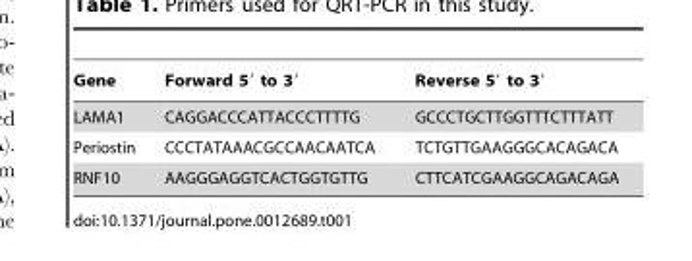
<table><thead><tr><td>Gene</td><td>Forward 5′ to 3′</td><td>Reverse 5′ to 3′</td></tr></thead><tbody><tr><td>LAMA1</td><td>CAGGACCCATTACCCTTTTG</td><td>GCCCTGCTTGGTTTCTTTATT</td></tr><tr><td>Periostin</td><td>CCCTATAAACGCCAACAATCA</td><td>TCTGTTGAAGGGCACAGACA</td></tr><tr><td>RNF10</td><td>AAGGGAGGTCACTGGTGTTG</td><td>CTTCATCGAAGGCAGACAGA</td></tr></tbody></table>